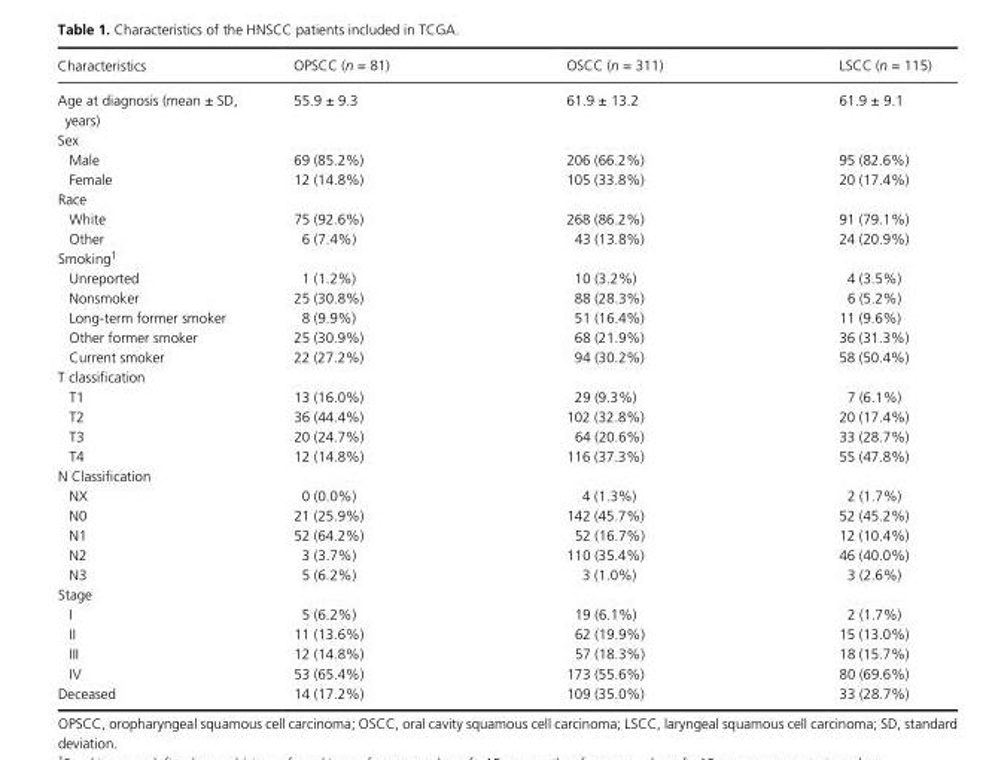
<table><thead><tr><td>Characteristics</td><td>OPSCC (n = 81)</td><td>OSCC (n = 311)</td><td>LSCC (n = 115)</td></tr></thead><tbody><tr><td>Age at diagnosis (mean ± SD, years)</td><td>55.9 ± 9.3</td><td>61.9 ± 13.2</td><td>61.9 ± 9.1</td></tr><tr><td colspan="4">Sex</td></tr><tr><td>Male</td><td>69 (85.2%)</td><td>206 (66.2%)</td><td>95 (82.6%)</td></tr><tr><td>Female</td><td>12 (14.8%)</td><td>105 (33.8%)</td><td>20 (17.4%)</td></tr><tr><td colspan="4">Race</td></tr><tr><td>White</td><td>75 (92.6%)</td><td>268 (86.2%)</td><td>91 (79.1%)</td></tr><tr><td>Other</td><td>6 (7.4%)</td><td>43 (13.8%)</td><td>24 (20.9%)</td></tr><tr><td colspan="4">Smoking1</td></tr><tr><td>Unreported</td><td>1 (1.2%)</td><td>10 (3.2%)</td><td>4 (3.5%)</td></tr><tr><td>Nonsmoker</td><td>25 (30.8%)</td><td>88 (28.3%)</td><td>6 (5.2%)</td></tr><tr><td>Long- term former smoker</td><td>8 (9.9%)</td><td>51 (16.4%)</td><td>11 (9.6%)</td></tr><tr><td>Other former smoker</td><td>25 (30.9%)</td><td>68 (21.9%)</td><td>36 (31.3%)</td></tr><tr><td>Current smoker</td><td>22 (27.2%)</td><td>94 (30.2%)</td><td>58 (50.4%)</td></tr><tr><td colspan="4">T classification</td></tr><tr><td>T1</td><td>13 (16.0%)</td><td>29 (9.3%)</td><td>7 (6.1%)</td></tr><tr><td>T2</td><td>36 (44.4%)</td><td>102 (32.8%)</td><td>20 (17.4%)</td></tr><tr><td>T3</td><td>20 (24.7%)</td><td>64 (20.6%)</td><td>33 (28.7%)</td></tr><tr><td>T4</td><td>12 (14.8%)</td><td>116 (37.3%)</td><td>55 (47.8%)</td></tr><tr><td colspan="4">N Classification</td></tr><tr><td>NX</td><td>0 (0.0%)</td><td>4 (1.3%)</td><td>2 (1.7%)</td></tr><tr><td>N0</td><td>21 (25.9%)</td><td>142 (45.7%)</td><td>52 (45.2%)</td></tr><tr><td>N1</td><td>52 (64.2%)</td><td>52 (16.7%)</td><td>12 (10.4%)</td></tr><tr><td>N2</td><td>3 (3.7%)</td><td>110 (35.4%)</td><td>46 (40.0%)</td></tr><tr><td>N3</td><td>5 (6.2%)</td><td>3 (1.0%)</td><td>3 (2.6%)</td></tr><tr><td colspan="4">Stage</td></tr><tr><td>I</td><td>5 (6.2%)</td><td>19 (6.1%)</td><td>2 (1.7%)</td></tr><tr><td>II</td><td>11 (13.6%)</td><td>62 (19.9%)</td><td>15 (13.0%)</td></tr><tr><td>III</td><td>12 (14.8%)</td><td>57 (18.3%)</td><td>18 (15.7%)</td></tr><tr><td>IV</td><td>53 (65.4%)</td><td>173 (55.6%)</td><td>80 (69.6%)</td></tr><tr><td>Deceased</td><td>14 (17.2%)</td><td>109 (35.0%)</td><td>33 (28.7%)</td></tr></tbody></table>